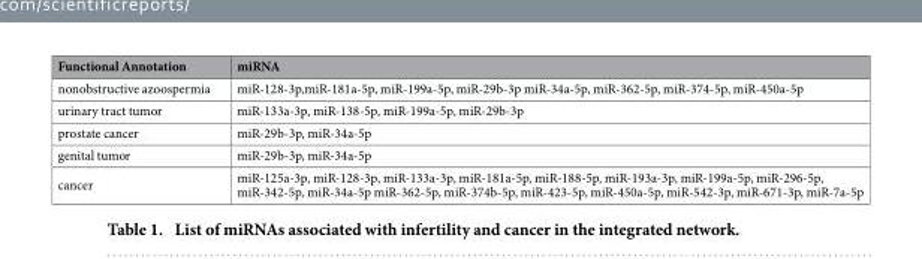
<table><thead><tr><td>Functional Annotation</td><td>miRNA</td></tr></thead><tbody><tr><td>nonobstructive azoospermia</td><td>miR-128-3p,miR-181a-5p, miR-199a-5p, miR-29b-3p miR-34a-5p, miR-362-5p, miR-374-5p, miR-450a-5p</td></tr><tr><td>urinary tract tumor</td><td>miR-133a-3p, miR-138-5p, miR-199a-5p, miR-29b-3p</td></tr><tr><td>prostate cancer</td><td>miR-29b-3p, miR-34a-5p</td></tr><tr><td>genital tumor</td><td>miR-29b-3p, miR-34a-5p</td></tr><tr><td>cancer</td><td>miR-125a-3p, miR-128-3p, miR-133a-3p, miR-181a-5p, miR-188-5p, miR-193a-3p, miR-199a-5p, miR-296-5p, miR-342-5p, miR-34a-5p miR-362-5p, miR-374b-5p, miR-423-5p, miR-450a-5p, miR-542-3p, miR-671-3p, miR-7a-5p</td></tr></tbody></table>